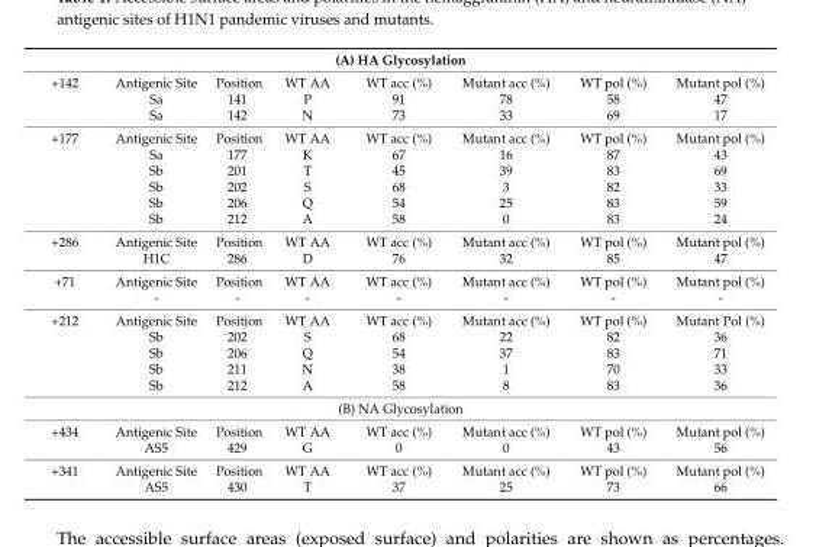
<table><thead><tr><td colspan="8">(A) HA Glycosylation</td></tr><tr><td>+142</td><td>Antigenic Site</td><td>Position</td><td>WT AA</td><td>WT acc (%)</td><td>Mutant acc (%)</td><td>WT pol (%)</td><td>Mutant pol (%)</td></tr></thead><tbody><tr><td></td><td>Sa</td><td>141</td><td>P</td><td>91</td><td>78</td><td>58</td><td>47</td></tr><tr><td></td><td>Sa</td><td>142</td><td>N</td><td>73</td><td>33</td><td>69</td><td>17</td></tr><tr><td rowspan="6">+177</td><td>Antigenic Site</td><td>Position</td><td>WT AA</td><td>WT acc (%)</td><td>Mutant acc (%)</td><td>WT pol (%)</td><td>Mutant pol (%)</td></tr><tr><td>Sa</td><td>177</td><td>K</td><td>67</td><td>16</td><td>87</td><td>43</td></tr><tr><td>Sb</td><td>201</td><td>T</td><td>45</td><td>39</td><td>83</td><td>69</td></tr><tr><td>Sb</td><td>202</td><td>S</td><td>68</td><td>3</td><td>82</td><td>33</td></tr><tr><td>Sb</td><td>206</td><td>Q</td><td>54</td><td>25</td><td>83</td><td>59</td></tr><tr><td>Sb</td><td>212</td><td>A</td><td>58</td><td>0</td><td>83</td><td>24</td></tr><tr><td rowspan="2">+286</td><td>Antigenic Site</td><td>Position</td><td>WT AA</td><td>WT acc (%)</td><td>Mutant acc (%)</td><td>WT pol (%)</td><td>Mutant pol (%)</td></tr><tr><td>H1C</td><td>286</td><td>D</td><td>76</td><td>32</td><td>85</td><td>47</td></tr><tr><td rowspan="2">+71</td><td>Antigenic Site</td><td>Position</td><td>WT AA</td><td>WT acc (%)</td><td>Mutant acc (%)</td><td>WT pol (%)</td><td>Mutant pol (%)</td></tr><tr><td>-</td><td>-</td><td>-</td><td>-</td><td>-</td><td>-</td><td>-</td></tr><tr><td rowspan="5">+212</td><td>Antigenic Site</td><td>Position</td><td>WT AA</td><td>WT acc (%)</td><td>Mutant acc (%)</td><td>WT pol (%)</td><td>Mutant Pol (%)</td></tr><tr><td>Sb</td><td>202</td><td>S</td><td>68</td><td>22</td><td>82</td><td>36</td></tr><tr><td>Sb</td><td>206</td><td>Q</td><td>54</td><td>37</td><td>83</td><td>71</td></tr><tr><td>Sb</td><td>211</td><td>N</td><td>38</td><td>1</td><td>70</td><td>33</td></tr><tr><td>Sb</td><td>212</td><td>A</td><td>58</td><td>8</td><td>83</td><td>36</td></tr><tr><td colspan="8">(B) NA Glycosylation</td></tr><tr><td rowspan="2">+434</td><td>Antigenic Site</td><td>Position</td><td>WT AA</td><td>WT acc (%)</td><td>Mutant acc (%)</td><td>WT pol (%)</td><td>Mutant pol (%)</td></tr><tr><td>AS5</td><td>429</td><td>G</td><td>0</td><td>0</td><td>43</td><td>56</td></tr><tr><td rowspan="2">+341</td><td>Antigenic Site</td><td>Position</td><td>WT AA</td><td>WT acc (%)</td><td>Mutant acc (%)</td><td>WT pol (%)</td><td>Mutant pol (%)</td></tr><tr><td>AS5</td><td>430</td><td>T</td><td>37</td><td>25</td><td>73</td><td>66</td></tr></tbody></table>